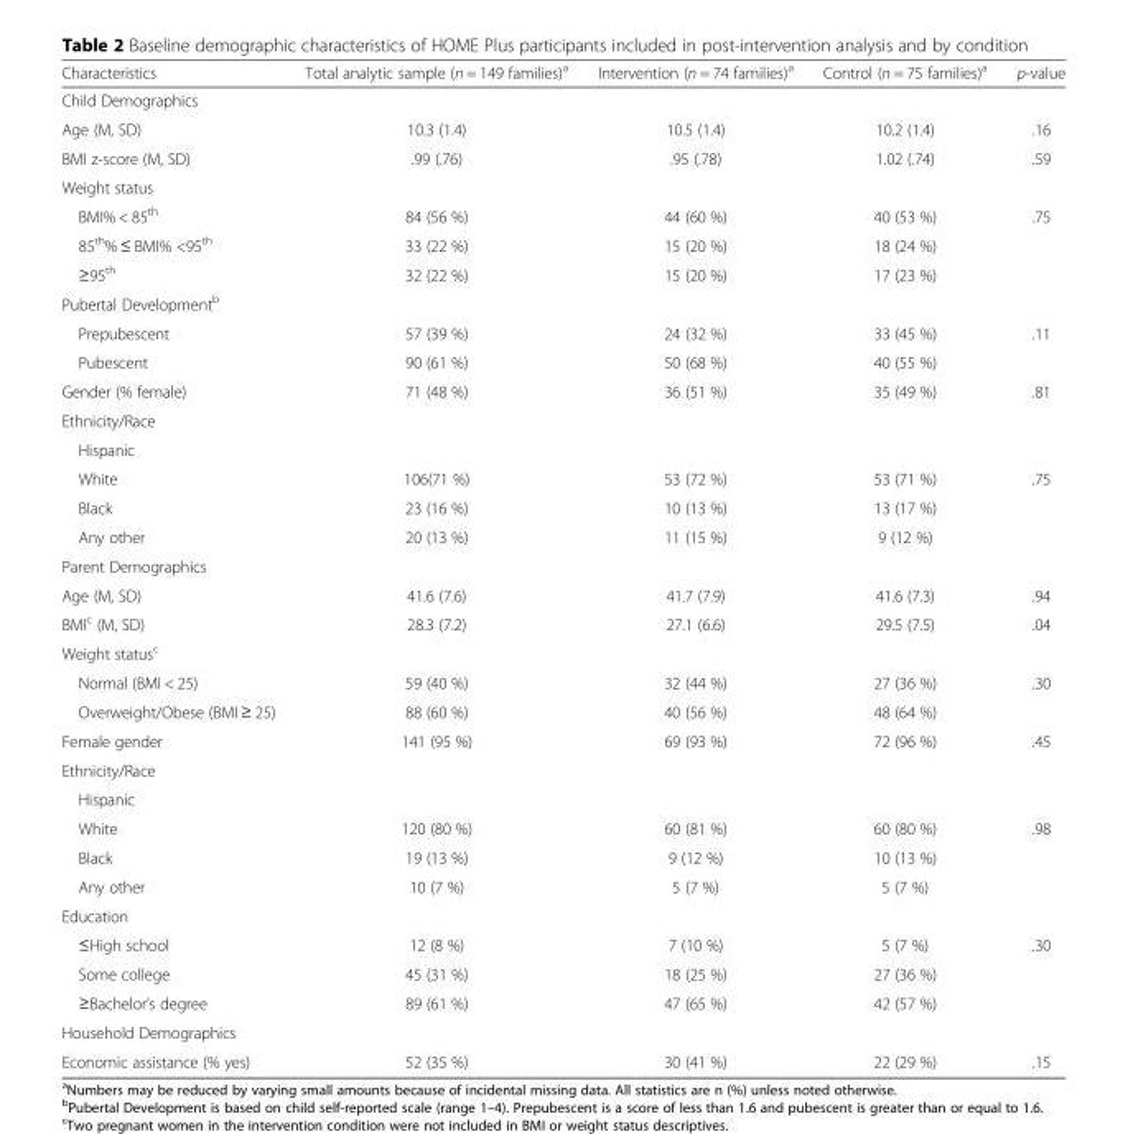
<table><thead><tr><td>Characteristics</td><td>Total analytic sample (n = 149 families)<sup>a</sup></td><td>Intervention (n = 74 families)<sup>a</sup></td><td>Control (n = 75 families)<sup>a</sup></td><td>p-value</td></tr></thead><tbody><tr><td colspan="5">Child Demographics</td></tr><tr><td>Age (M, SD)</td><td>10.3 (1.4)</td><td>10.5 (1.4)</td><td>10.2 (1.4)</td><td>.16</td></tr><tr><td>BMI z-score (M, SD)</td><td>.99 (.76)</td><td>.95 (.78)</td><td>1.02 (.74)</td><td>.59</td></tr><tr><td colspan="5">Weight status</td></tr><tr><td>BMI% &lt; 85<sup>th</sup></td><td>84 (56 %)</td><td>44 (60 %)</td><td>40 (53 %)</td><td>.75</td></tr><tr><td>85<sup>th</sup>% ≤ BMI% &lt;95<sup>th</sup></td><td>33 (22 %)</td><td>15 (20 %)</td><td>18 (24 %)</td><td></td></tr><tr><td>≥95<sup>th</sup></td><td>32 (22 %)</td><td>15 (20 %)</td><td>17 (23 %)</td><td></td></tr><tr><td colspan="5">Pubertal Development<sup>b</sup></td></tr><tr><td>Prepubescent</td><td>57 (39 %)</td><td>24 (32 %)</td><td>33 (45 %)</td><td>.11</td></tr><tr><td>Pubescent</td><td>90 (61 %)</td><td>50 (68 %)</td><td>40 (55 %)</td><td></td></tr><tr><td>Gender (% female)</td><td>71 (48 %)</td><td>36 (51 %)</td><td>35 (49 %)</td><td>.81</td></tr><tr><td colspan="5">Ethnicity/Race</td></tr><tr><td colspan="5">Hispanic</td></tr><tr><td>White</td><td>106(71 %)</td><td>53 (72 %)</td><td>53 (71 %)</td><td>.75</td></tr><tr><td>Black</td><td>23 (16 %)</td><td>10 (13 %)</td><td>13 (17 %)</td><td></td></tr><tr><td>Any other</td><td>20 (13 %)</td><td>11 (15 %)</td><td>9 (12 %)</td><td></td></tr><tr><td colspan="5">Parent Demographics</td></tr><tr><td>Age (M, SD)</td><td>41.6 (7.6)</td><td>41.7 (7.9)</td><td>41.6 (7.3)</td><td>.94</td></tr><tr><td>BMI<sup>c</sup> (M, SD)</td><td>28.3 (7.2)</td><td>27.1 (6.6)</td><td>29.5 (7.5)</td><td>.04</td></tr><tr><td colspan="5">Weight status<sup>c</sup></td></tr><tr><td>Normal (BMI &lt; 25)</td><td>59 (40 %)</td><td>32 (44 %)</td><td>27 (36 %)</td><td>.30</td></tr><tr><td>Overweight/Obese (BMI ≥ 25)</td><td>88 (60 %)</td><td>40 (56 %)</td><td>48 (64 %)</td><td></td></tr><tr><td>Female gender</td><td>141 (95 %)</td><td>69 (93 %)</td><td>72 (96 %)</td><td>.45</td></tr><tr><td colspan="5">Ethnicity/Race</td></tr><tr><td colspan="5">Hispanic</td></tr><tr><td>White</td><td>120 (80 %)</td><td>60 (81 %)</td><td>60 (80 %)</td><td>.98</td></tr><tr><td>Black</td><td>19 (13 %)</td><td>9 (12 %)</td><td>10 (13 %)</td><td></td></tr><tr><td>Any other</td><td>10 (7 %)</td><td>5 (7 %)</td><td>5 (7 %)</td><td></td></tr><tr><td colspan="5">Education</td></tr><tr><td>≤High school</td><td>12 (8 %)</td><td>7 (10 %)</td><td>5 (7 %)</td><td>.30</td></tr><tr><td>Some college</td><td>45 (31 %)</td><td>18 (25 %)</td><td>27 (36 %)</td><td></td></tr><tr><td>≥Bachelor’s degree</td><td>89 (61 %)</td><td>47 (65 %)</td><td>42 (57 %)</td><td></td></tr><tr><td colspan="5">Household Demographics</td></tr><tr><td>Economic assistance (% yes)</td><td>52 (35 %)</td><td>30 (41 %)</td><td>22 (29 %)</td><td>.15</td></tr></tbody></table>